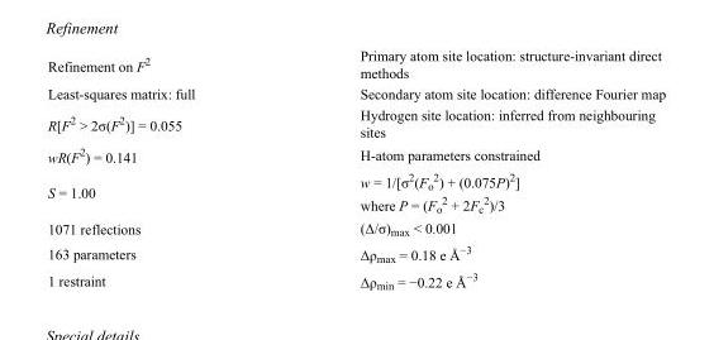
<table><tbody><tr><td>Refinement on F<sup>2</sup></td><td>Primary atom site location: structure-invariant direct methods</td></tr><tr><td>Least-squares matrix: full</td><td>Secondary atom site location: difference Fourier map</td></tr><tr><td>R[F<sup>2</sup> &gt; 2σ(F<sup>2</sup>)] = 0.055</td><td>Hydrogen site location: inferred from neighbouring sites</td></tr><tr><td>wR(F<sup>2</sup>) = 0.141</td><td>H-atom parameters constrained</td></tr><tr><td>S = 1.00</td><td>w = 1/[σ<sup>2</sup>(F<sub>o</sub> <sup>2</sup>) + (0.075P)<sup>2</sup>] where P = (F<sub>o</sub> <sup>2</sup> + 2F<sub>c</sub> <sup>2</sup>)/3</td></tr><tr><td>1071 reflections</td><td>(Δ/σ)<sub>max</sub> &lt; 0.001</td></tr><tr><td>163 parameters</td><td>Δρ<sub>max</sub> = 0.18 e Å<sup>−3</sup></td></tr><tr><td>1 restraint</td><td>Δρ<sub>min</sub> = −0.22 e Å<sup>−3</sup></td></tr></tbody></table>